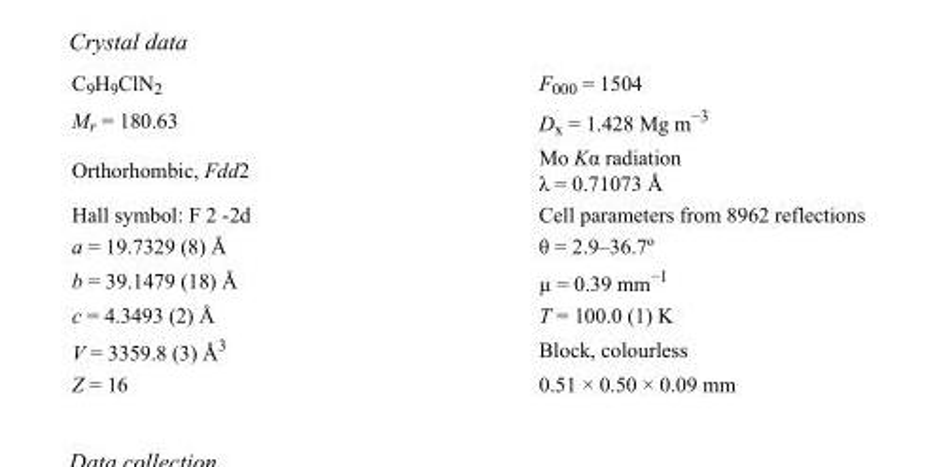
<table><tbody><tr><td>C<sub>9</sub>H<sub>9</sub>ClN<sub>2</sub></td><td>F000 = 1504</td></tr><tr><td>M<sub>r</sub> = 180.63</td><td>D<sub>x</sub> = 1.428 Mg m<sup>−3</sup></td></tr><tr><td>Orthorhombic, Fdd2</td><td>Mo Kα radiation λ = 0.71073 Å</td></tr><tr><td>Hall symbol: F 2 -2d</td><td>Cell parameters from 8962 reflections</td></tr><tr><td>a = 19.7329 (8) Å</td><td>θ = 2.9–36.7º</td></tr><tr><td>b = 39.1479 (18) Å</td><td>µ = 0.39 mm<sup>−1</sup></td></tr><tr><td>c = 4.3493 (2) Å</td><td>T = 100.0 (1) K</td></tr><tr><td>V = 3359.8 (3) Å<sup>3</sup></td><td>Block, colourless</td></tr><tr><td>Z = 16</td><td>0.51 × 0.50 × 0.09 mm</td></tr></tbody></table>